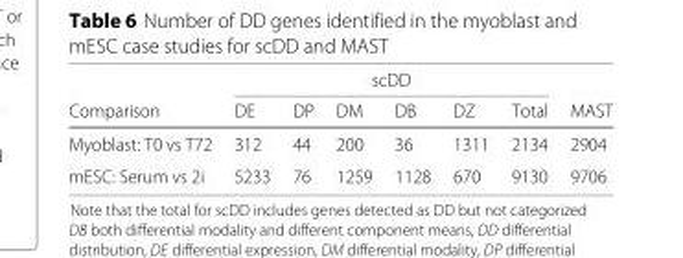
<table><thead><tr><td rowspan="2">Comparison</td><td colspan="6">scDD</td><td rowspan="2">MAST</td></tr><tr><td>DE</td><td>DP</td><td>DM</td><td>DB</td><td>DZ</td><td>Total</td></tr></thead><tbody><tr><td>Myoblast: T0 vs T72</td><td>312</td><td>44</td><td>200</td><td>36</td><td>1311</td><td>2134</td><td>2904</td></tr><tr><td>mESC: Serum vs 2i</td><td>5233</td><td>76</td><td>1259</td><td>1128</td><td>670</td><td>9130</td><td>9706</td></tr></tbody></table>